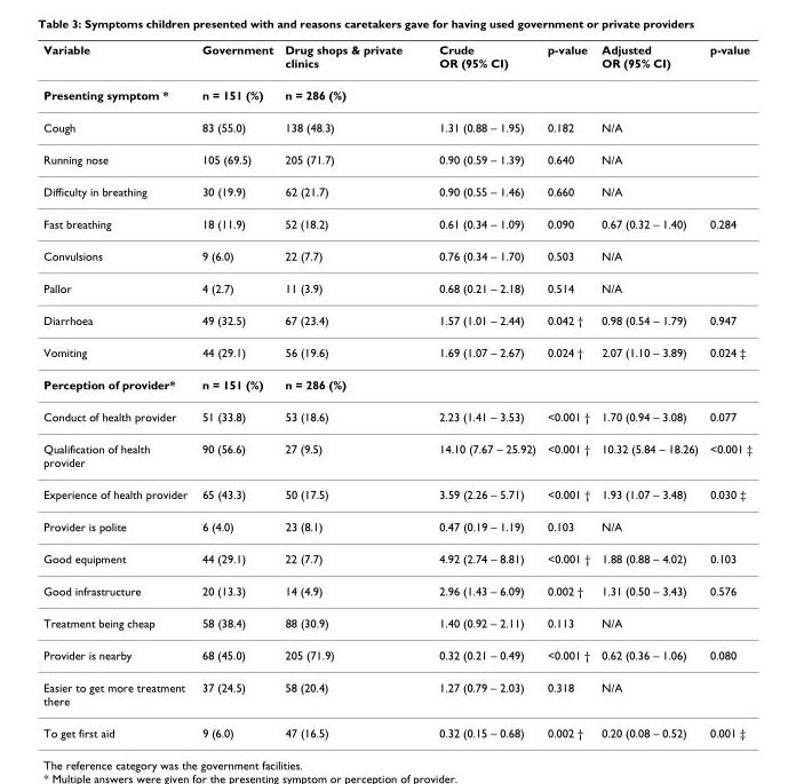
<table><thead><tr><td>Variable</td><td>Government</td><td>Drug shops &amp; private clinics</td><td>Crude OR (95% CI)</td><td>p-value</td><td>Adjusted OR (95% CI)</td><td>p-value</td></tr></thead><tbody><tr><td>Presenting symptom *</td><td>n = 151 (%)</td><td>n = 286 (%)</td><td></td><td></td><td></td><td></td></tr><tr><td>Cough</td><td>83 (55.0)</td><td>138 (48.3)</td><td>1.31 (0.88 – 1.95)</td><td>0.182</td><td>N/A</td><td></td></tr><tr><td>Running nose</td><td>105 (69.5)</td><td>205 (71.7)</td><td>0.90 (0.59 – 1.39)</td><td>0.640</td><td>N/A</td><td></td></tr><tr><td>Difficulty in breathing</td><td>30 (19.9)</td><td>62 (21.7)</td><td>0.90 (0.55 – 1.46)</td><td>0.660</td><td>N/A</td><td></td></tr><tr><td>Fast breathing</td><td>18 (11.9)</td><td>52 (18.2)</td><td>0.61 (0.34 – 1.09)</td><td>0.090</td><td>0.67 (0.32 – 1.40)</td><td>0.284</td></tr><tr><td>Convulsions</td><td>9 (6.0)</td><td>22 (7.7)</td><td>0.76 (0.34 – 1.70)</td><td>0.503</td><td>N/A</td><td></td></tr><tr><td>Pallor</td><td>4 (2.7)</td><td>11 (3.9)</td><td>0.68 (0.21 – 2.18)</td><td>0.514</td><td>N/A</td><td></td></tr><tr><td>Diarrhoea</td><td>49 (32.5)</td><td>67 (23.4)</td><td>1.57 (1.01 – 2.44)</td><td>0.042 †</td><td>0.98 (0.54 – 1.79)</td><td>0.947</td></tr><tr><td>Vomiting</td><td>44 (29.1)</td><td>56 (19.6)</td><td>1.69 (1.07 – 2.67)</td><td>0.024 †</td><td>2.07 (1.10 – 3.89)</td><td>0.024 ‡</td></tr><tr><td>Perception of provider*</td><td>n = 151 (%)</td><td>n = 286 (%)</td><td></td><td></td><td></td><td></td></tr><tr><td>Conduct of health provider</td><td>51 (33.8)</td><td>53 (18.6)</td><td>2.23 (1.41 – 3.53)</td><td>&lt;0.001 †</td><td>1.70 (0.94 – 3.08)</td><td>0.077</td></tr><tr><td>Qualification of health provider</td><td>90 (56.6)</td><td>27 (9.5)</td><td>14.10 (7.67 – 25.92)</td><td>&lt;0.001 †</td><td>10.32 (5.84 – 18.26)</td><td>&lt;0.001 ‡</td></tr><tr><td>Experience of health provider</td><td>65 (43.3)</td><td>50 (17.5)</td><td>3.59 (2.26 – 5.71)</td><td>&lt;0.001 †</td><td>1.93 (1.07 – 3.48)</td><td>0.030 ‡</td></tr><tr><td>Provider is polite</td><td>6 (4.0)</td><td>23 (8.1)</td><td>0.47 (0.19 – 1.19)</td><td>0.103</td><td>N/A</td><td></td></tr><tr><td>Good equipment</td><td>44 (29.1)</td><td>22 (7.7)</td><td>4.92 (2.74 – 8.81)</td><td>&lt;0.001 †</td><td>1.88 (0.88 – 4.02)</td><td>0.103</td></tr><tr><td>Good infrastructure</td><td>20 (13.3)</td><td>14 (4.9)</td><td>2.96 (1.43 – 6.09)</td><td>0.002 †</td><td>1.31 (0.50 – 3.43)</td><td>0.576</td></tr><tr><td>Treatment being cheap</td><td>58 (38.4)</td><td>88 (30.9)</td><td>1.40 (0.92 – 2.11)</td><td>0.113</td><td>N/A</td><td></td></tr><tr><td>Provider is nearby</td><td>68 (45.0)</td><td>205 (71.9)</td><td>0.32 (0.21 – 0.49)</td><td>&lt;0.001 †</td><td>0.62 (0.36 – 1.06)</td><td>0.080</td></tr><tr><td>Easier to get more treatment there</td><td>37 (24.5)</td><td>58 (20.4)</td><td>1.27 (0.79 – 2.03)</td><td>0.318</td><td>N/A</td><td></td></tr><tr><td>To get first aid</td><td>9 (6.0)</td><td>47 (16.5)</td><td>0.32 (0.15 – 0.68)</td><td>0.002 †</td><td>0.20 (0.08 – 0.52)</td><td>0.001 ‡</td></tr></tbody></table>